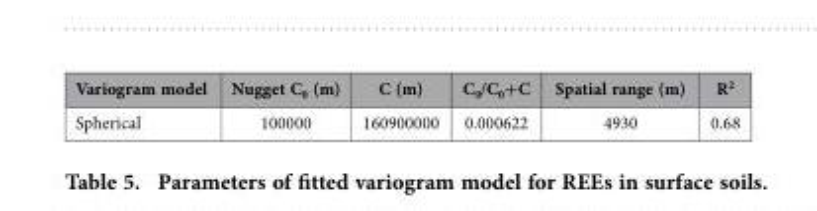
<table><thead><tr><td>Variogram model</td><td>Nugget C<sub>0</sub> (m)</td><td>C (m)</td><td>C<sub>0</sub>/C<sub>0</sub>+C</td><td>Spatial range (m)</td><td>R<sup>2</sup></td></tr></thead><tbody><tr><td>Spherical</td><td>100000</td><td>160900000</td><td>0.000622</td><td>4930</td><td>0.68</td></tr></tbody></table>